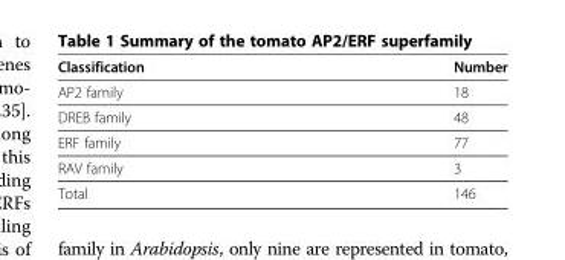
<table><thead><tr><td>Classification</td><td>Number</td></tr></thead><tbody><tr><td>AP2 family</td><td>18</td></tr><tr><td>DREB family</td><td>48</td></tr><tr><td>ERF family</td><td>77</td></tr><tr><td>RAV family</td><td>3</td></tr><tr><td>Total</td><td>146</td></tr></tbody></table>